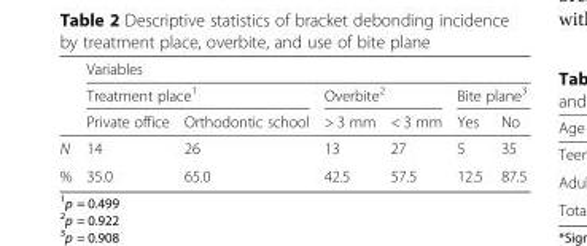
<table><thead><tr><td rowspan="3"></td><td colspan="6">Variables</td></tr><tr><td colspan="2">Treatment place<sup>1</sup></td><td colspan="2">Overbite<sup>2</sup></td><td colspan="2">Bite plane<sup>3</sup></td></tr><tr><td>Private office</td><td>Orthodontic school</td><td>&gt; 3 mm</td><td>&lt; 3 mm</td><td>Yes</td><td>No</td></tr></thead><tbody><tr><td>N</td><td>14</td><td>26</td><td>13</td><td>27</td><td>5</td><td>35</td></tr><tr><td>%</td><td>35.0</td><td>65.0</td><td>42.5</td><td>57.5</td><td>12.5</td><td>87.5</td></tr></tbody></table>